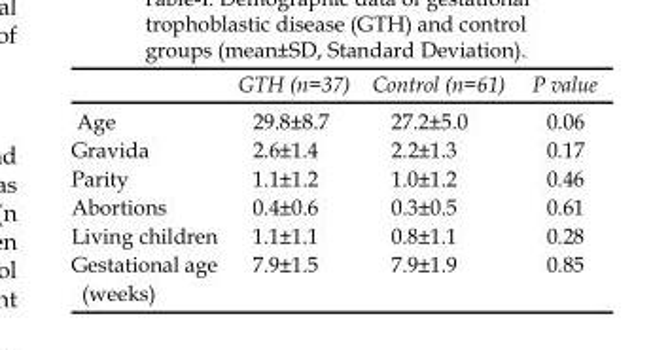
<table><thead><tr><td></td><td>GTH (n=37)</td><td>Control (n=61)</td><td>P value</td></tr></thead><tbody><tr><td>Age</td><td>29.8±8.7</td><td>27.2±5.0</td><td>0.06</td></tr><tr><td>Gravida</td><td>2.6±1.4</td><td>2.2±1.3</td><td>0.17</td></tr><tr><td>Parity</td><td>1.1±1.2</td><td>1.0±1.2</td><td>0.46</td></tr><tr><td>Abortions</td><td>0.4±0.6</td><td>0.3±0.5</td><td>0.61</td></tr><tr><td>Living children</td><td>1.1±1.1</td><td>0.8±1.1</td><td>0.28</td></tr><tr><td>Gestational age</td><td>7.9±1.5</td><td>7.9±1.9</td><td>0.85</td></tr></tbody></table>